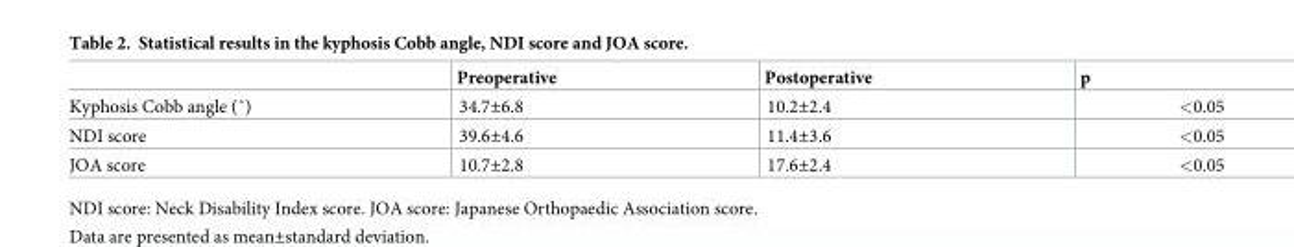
<table><thead><tr><td></td><td>Preoperative</td><td>Postoperative</td><td>p</td></tr></thead><tbody><tr><td>Kyphosis Cobb angle (˚)</td><td>34.7±6.8</td><td>10.2±2.4</td><td>&lt;0.05</td></tr><tr><td>NDI score</td><td>39.6±4.6</td><td>11.4±3.6</td><td>&lt;0.05</td></tr><tr><td>JOA score</td><td>10.7±2.8</td><td>17.6±2.4</td><td>&lt;0.05</td></tr></tbody></table>